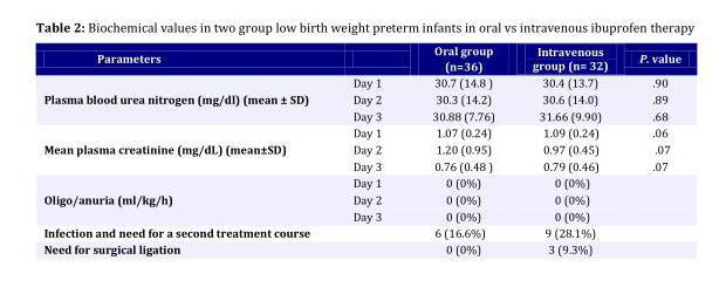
<table><thead><tr><td>Parameters</td><td></td><td>Oral group (n=36)</td><td>Intravenous group (n= 32)</td><td>P. value</td></tr></thead><tbody><tr><td rowspan="3">Plasma blood urea nitrogen (mg/dl) (mean ± SD)</td><td>Day 1</td><td>30.7 (14.8 )</td><td>30.4 (13.7)</td><td>.90</td></tr><tr><td>Day 2</td><td>30.3 (14.2)</td><td>30.6 (14.0)</td><td>.89</td></tr><tr><td>Day 3</td><td>30.88 (7.76)</td><td>31.66 (9.90)</td><td>.68</td></tr><tr><td rowspan="3">Mean plasma creatinine (mg/dL) (mean±SD)</td><td>Day 1</td><td>1.07 (0.24)</td><td>1.09 (0.24)</td><td>.06</td></tr><tr><td>Day 2</td><td>1.20 (0.95)</td><td>0.97 (0.45)</td><td>.07</td></tr><tr><td>Day 3</td><td>0.76 (0.48 )</td><td>0.79 (0.46)</td><td>.07</td></tr><tr><td rowspan="3">Oligo/anuria (ml/kg/h)</td><td>Day 1</td><td>0 (0%)</td><td>0 (0%)</td><td></td></tr><tr><td>Day 2</td><td>0 (0%)</td><td>0 (0%)</td><td></td></tr><tr><td>Day 3</td><td>0 (0%)</td><td>0 (0%)</td><td></td></tr><tr><td>Infection and need for a second treatment course</td><td></td><td>6 (16.6%)</td><td>9 (28.1%)</td><td></td></tr><tr><td>Need for surgical ligation</td><td></td><td>0 (0%)</td><td>3 (9.3%)</td><td></td></tr></tbody></table>